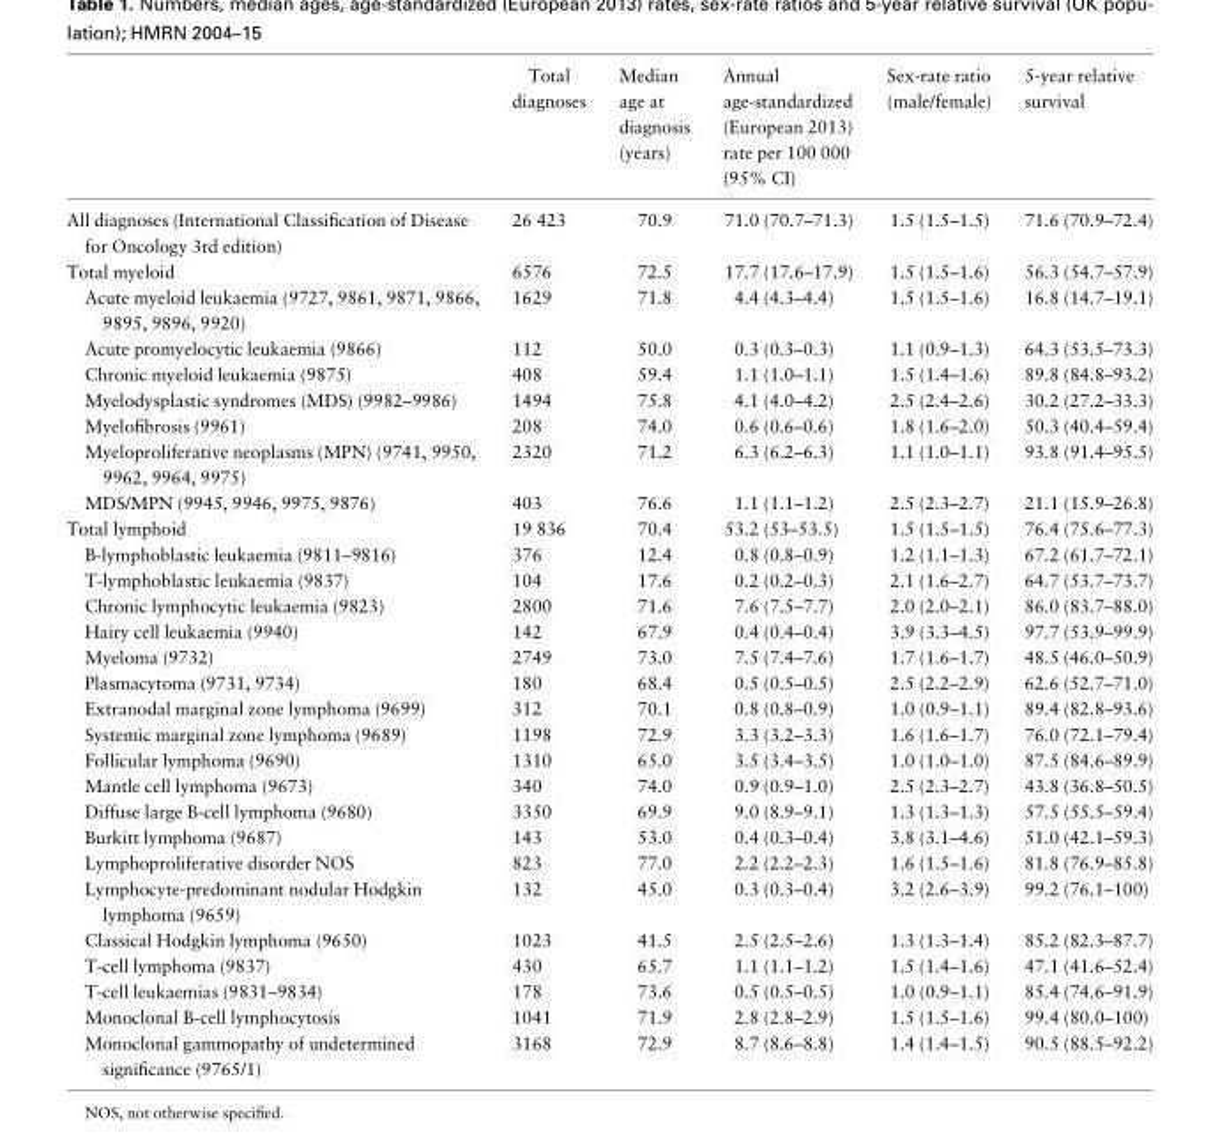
<table><thead><tr><td></td><td>Total diagnoses</td><td>Median age at diagnosis (years)</td><td>Annual age-standardized (European 2013) rate per 100 000 (95% CI)</td><td>Sex-rate ratio (male/female)</td><td>5-year relative survival</td></tr></thead><tbody><tr><td>All diagnoses (International Classification of Disease for Oncology 3rd edition)</td><td>26 423</td><td>70.9</td><td>71.0 (70.7–71.3)</td><td>1.5 (1.5–1.5)</td><td>71.6 (70.9–72.4)</td></tr><tr><td>Total myeloid</td><td>6576</td><td>72.5</td><td>17.7 (17.6–17.9)</td><td>1.5 (1.5–1.6)</td><td>56.3 (54.7–57.9)</td></tr><tr><td>Acute myeloid leukaemia (9727, 9861, 9871, 9866, 9895, 9896, 9920)</td><td>1629</td><td>71.8</td><td>4.4 (4.3–4.4)</td><td>1.5 (1.5–1.6)</td><td>16.8 (14.7–19.1)</td></tr><tr><td>Acute promyelocytic leukaemia (9866)</td><td>112</td><td>50.0</td><td>0.3 (0.3–0.3)</td><td>1.1 (0.9–1.3)</td><td>64.3 (53.5–73.3)</td></tr><tr><td>Chronic myeloid leukaemia (9875)</td><td>408</td><td>59.4</td><td>1.1 (1.0–1.1)</td><td>1.5 (1.4–1.6)</td><td>89.8 (84.8–93.2)</td></tr><tr><td>Myelodysplastic syndromes (MDS) (9982–9986)</td><td>1494</td><td>75.8</td><td>4.1 (4.0–4.2)</td><td>2.5 (2.4–2.6)</td><td>30.2 (27.2–33.3)</td></tr><tr><td>Myelofibrosis (9961)</td><td>208</td><td>74.0</td><td>0.6 (0.6–0.6)</td><td>1.8 (1.6–2.0)</td><td>50.3 (40.4–59.4)</td></tr><tr><td>Myeloproliferative neoplasms (MPN) (9741, 9950, 9962, 9964, 9975)</td><td>2320</td><td>71.2</td><td>6.3 (6.2–6.3)</td><td>1.1 (1.0–1.1)</td><td>93.8 (91.4–95.5)</td></tr><tr><td>MDS/MPN (9945, 9946, 9975, 9876)</td><td>403</td><td>76.6</td><td>1.1 (1.1–1.2)</td><td>2.5 (2.3–2.7)</td><td>21.1 (15.9–26.8)</td></tr><tr><td>Total lymphoid</td><td>19 836</td><td>70.4</td><td>53.2 (53–53.5)</td><td>1.5 (1.5–1.5)</td><td>76.4 (75.6–77.3)</td></tr><tr><td>B-lymphoblastic leukaemia (9811–9816)</td><td>376</td><td>12.4</td><td>0.8 (0.8–0.9)</td><td>1.2 (1.1–1.3)</td><td>67.2 (61.7–72.1)</td></tr><tr><td>T-lymphoblastic leukaemia (9837)</td><td>104</td><td>17.6</td><td>0.2 (0.2–0.3)</td><td>2.1 (1.6–2.7)</td><td>64.7 (53.7–73.7)</td></tr><tr><td>Chronic lymphocytic leukaemia (9823)</td><td>2800</td><td>71.6</td><td>7.6 (7.5–7.7)</td><td>2.0 (2.0–2.1)</td><td>86.0 (83.7–88.0)</td></tr><tr><td>Hairy cell leukaemia (9940)</td><td>142</td><td>67.9</td><td>0.4 (0.4–0.4)</td><td>3.9 (3.3–4.5)</td><td>97.7 (53.9–99.9)</td></tr><tr><td>Myeloma (9732)</td><td>2749</td><td>73.0</td><td>7.5 (7.4–7.6)</td><td>1.7 (1.6–1.7)</td><td>48.5 (46.0–50.9)</td></tr><tr><td>Plasmacytoma (9731, 9734)</td><td>180</td><td>68.4</td><td>0.5 (0.5–0.5)</td><td>2.5 (2.2–2.9)</td><td>62.6 (52.7–71.0)</td></tr><tr><td>Extranodal marginal zone lymphoma (9699)</td><td>312</td><td>70.1</td><td>0.8 (0.8–0.9)</td><td>1.0 (0.9–1.1)</td><td>89.4 (82.8–93.6)</td></tr><tr><td>Systemic marginal zone lymphoma (9689)</td><td>1198</td><td>72.9</td><td>3.3 (3.2–3.3)</td><td>1.6 (1.6–1.7)</td><td>76.0 (72.1–79.4)</td></tr><tr><td>Follicular lymphoma (9690)</td><td>1310</td><td>65.0</td><td>3.5 (3.4–3.5)</td><td>1.0 (1.0–1.0)</td><td>87.5 (84.6–89.9)</td></tr><tr><td>Mantle cell lymphoma (9673)</td><td>340</td><td>74.0</td><td>0.9 (0.9–1.0)</td><td>2.5 (2.3–2.7)</td><td>43.8 (36.8–50.5)</td></tr><tr><td>Diffuse large B-cell lymphoma (9680)</td><td>3350</td><td>69.9</td><td>9.0 (8.9–9.1)</td><td>1.3 (1.3–1.3)</td><td>57.5 (55.5–59.4)</td></tr><tr><td>Burkitt lymphoma (9687)</td><td>143</td><td>53.0</td><td>0.4 (0.3–0.4)</td><td>3.8 (3.1–4.6)</td><td>51.0 (42.1–59.3)</td></tr><tr><td>Lymphoproliferative disorder NOS</td><td>823</td><td>77.0</td><td>2.2 (2.2–2.3)</td><td>1.6 (1.5–1.6)</td><td>81.8 (76.9–85.8)</td></tr><tr><td>Lymphocyte-predominant nodular Hodgkin lymphoma (9659)</td><td>132</td><td>45.0</td><td>0.3 (0.3–0.4)</td><td>3.2 (2.6–3.9)</td><td>99.2 (76.1–100)</td></tr><tr><td>Classical Hodgkin lymphoma (9650)</td><td>1023</td><td>41.5</td><td>2.5 (2.5–2.6)</td><td>1.3 (1.3–1.4)</td><td>85.2 (82.3–87.7)</td></tr><tr><td>T-cell lymphoma (9837)</td><td>430</td><td>65.7</td><td>1.1 (1.1–1.2)</td><td>1.5 (1.4–1.6)</td><td>47.1 (41.6–52.4)</td></tr><tr><td>T-cell leukaemias (9831–9834)</td><td>178</td><td>73.6</td><td>0.5 (0.5–0.5)</td><td>1.0 (0.9–1.1)</td><td>85.4 (74.6–91.9)</td></tr><tr><td>Monoclonal B-cell lymphocytosis</td><td>1041</td><td>71.9</td><td>2.8 (2.8–2.9)</td><td>1.5 (1.5–1.6)</td><td>99.4 (80.0–100)</td></tr><tr><td>Monoclonal gammopathy of undetermined significance (9765/1)</td><td>3168</td><td>72.9</td><td>8.7 (8.6–8.8)</td><td>1.4 (1.4–1.5)</td><td>90.5 (88.5–92.2)</td></tr></tbody></table>